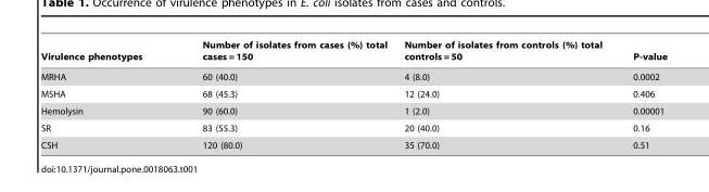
<table><thead><tr><td>Virulence phenotypes</td><td>Number of isolates from cases (%) total cases = 150</td><td>Number of isolates from controls (%) total controls = 50</td><td>P-value</td></tr></thead><tbody><tr><td>MRHA</td><td>60 (40.0)</td><td>4 (8.0)</td><td>0.0002</td></tr><tr><td>MSHA</td><td>68 (45.3)</td><td>12 (24.0)</td><td>0.406</td></tr><tr><td>Hemolysin</td><td>90 (60.0)</td><td>1 (2.0)</td><td>0.00001</td></tr><tr><td>SR</td><td>83 (55.3)</td><td>20 (40.0)</td><td>0.16</td></tr><tr><td>CSH</td><td>120 (80.0)</td><td>35 (70.0)</td><td>0.51</td></tr></tbody></table>